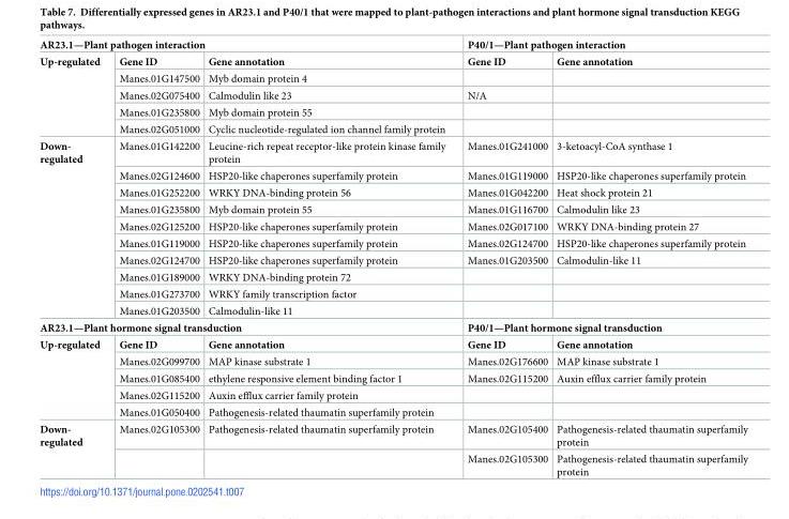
<table><tbody><tr><td colspan="3">AR23.1—Plant pathogen interaction</td><td colspan="2">P40/1—Plant pathogen interaction</td></tr><tr><td rowspan="5">Up-regulated</td><td>Gene ID</td><td>Gene annotation</td><td>Gene ID</td><td>Gene annotation</td></tr><tr><td>Manes.01G147500</td><td>Myb domain protein 4</td><td></td><td></td></tr><tr><td>Manes.02G075400</td><td>Calmodulin like 23</td><td>N/A</td><td></td></tr><tr><td>Manes.01G235800</td><td>Myb domain protein 55</td><td></td><td></td></tr><tr><td>Manes.02G051000</td><td>Cyclic nucleotide-regulated ion channel family protein</td><td></td><td></td></tr><tr><td rowspan="10">Down- regulated</td><td>Manes.01G142200</td><td>Leucine-rich repeat receptor-like protein kinase family protein</td><td>Manes.01G241000</td><td>3-ketoacyl-CoA synthase 1</td></tr><tr><td>Manes.02G124600</td><td>HSP20-like chaperones superfamily protein</td><td>Manes.01G119000</td><td>HSP20-like chaperones superfamily protein</td></tr><tr><td>Manes.01G252200</td><td>WRKY DNA-binding protein 56</td><td>Manes.01G042200</td><td>Heat shock protein 21</td></tr><tr><td>Manes.01G235800</td><td>Myb domain protein 55</td><td>Manes.01G116700</td><td>Calmodulin like 23</td></tr><tr><td>Manes.02G125200</td><td>HSP20-like chaperones superfamily protein</td><td>Manes.02G017100</td><td>WRKY DNA-binding protein 27</td></tr><tr><td>Manes.01G119000</td><td>HSP20-like chaperones superfamily protein</td><td>Manes.02G124700</td><td>HSP20-like chaperones superfamily protein</td></tr><tr><td>Manes.02G124700</td><td>HSP20-like chaperones superfamily protein</td><td>Manes.01G203500</td><td>Calmodulin-like 11</td></tr><tr><td>Manes.01G189000</td><td>WRKY DNA-binding protein 72</td><td></td><td></td></tr><tr><td>Manes.01G273700</td><td>WRKY family transcription factor</td><td></td><td></td></tr><tr><td>Manes.01G203500</td><td>Calmodulin-like 11</td><td></td><td></td></tr><tr><td colspan="3">AR23.1—Plant hormone signal transduction</td><td colspan="2">P40/1—Plant hormone signal transduction</td></tr><tr><td rowspan="5">Up-regulated</td><td>Gene ID</td><td>Gene annotation</td><td>Gene ID</td><td>Gene annotation</td></tr><tr><td>Manes.02G099700</td><td>MAP kinase substrate 1</td><td>Manes.02G176600</td><td>MAP kinase substrate 1</td></tr><tr><td>Manes.01G085400</td><td>ethylene responsive element binding factor 1</td><td>Manes.02G115200</td><td>Auxin efflux carrier family protein</td></tr><tr><td>Manes.02G115200</td><td>Auxin efflux carrier family protein</td><td></td><td></td></tr><tr><td>Manes.01G050400</td><td>Pathogenesis-related thaumatin superfamily protein</td><td></td><td></td></tr><tr><td rowspan="2">Down- regulated</td><td>Manes.02G105300</td><td>Pathogenesis-related thaumatin superfamily protein</td><td>Manes.02G105400</td><td>Pathogenesis-related thaumatin superfamily protein</td></tr><tr><td></td><td></td><td>Manes.02G105300</td><td>Pathogenesis-related thaumatin superfamily protein</td></tr></tbody></table>